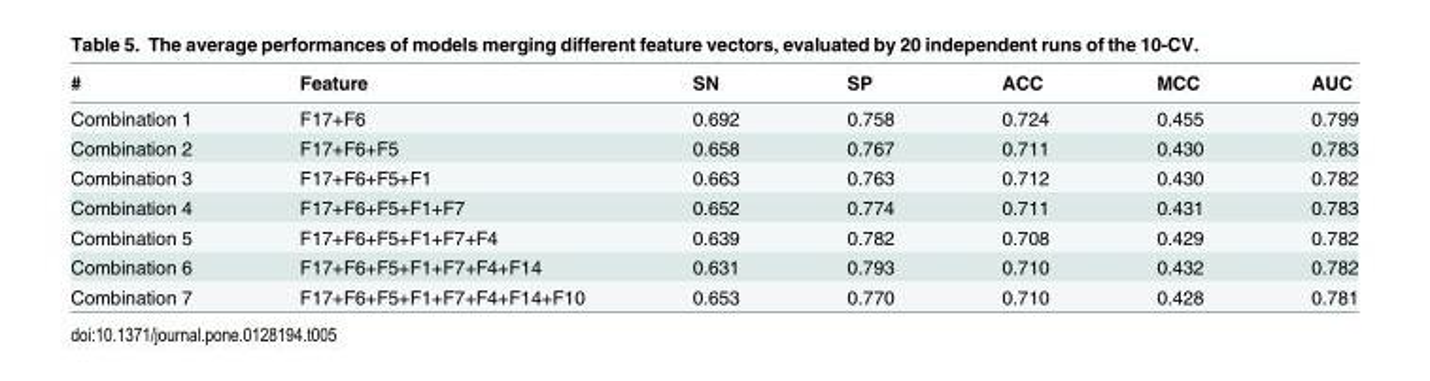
<table><thead><tr><td>#</td><td>Feature</td><td>SN</td><td>SP</td><td>ACC</td><td>MCC</td><td>AUC</td></tr></thead><tbody><tr><td>Combination 1</td><td>F17+F6</td><td>0.692</td><td>0.758</td><td>0.724</td><td>0.455</td><td>0.799</td></tr><tr><td>Combination 2</td><td>F17+F6+F5</td><td>0.658</td><td>0.767</td><td>0.711</td><td>0.430</td><td>0.783</td></tr><tr><td>Combination 3</td><td>F17+F6+F5+F1</td><td>0.663</td><td>0.763</td><td>0.712</td><td>0.430</td><td>0.782</td></tr><tr><td>Combination 4</td><td>F17+F6+F5+F1+F7</td><td>0.652</td><td>0.774</td><td>0.711</td><td>0.431</td><td>0.783</td></tr><tr><td>Combination 5</td><td>F17+F6+F5+F1+F7+F4</td><td>0.639</td><td>0.782</td><td>0.708</td><td>0.429</td><td>0.782</td></tr><tr><td>Combination 6</td><td>F17+F6+F5+F1+F7+F4+F14</td><td>0.631</td><td>0.793</td><td>0.710</td><td>0.432</td><td>0.782</td></tr><tr><td>Combination 7</td><td>F17+F6+F5+F1+F7+F4+F14+F10</td><td>0.653</td><td>0.770</td><td>0.710</td><td>0.428</td><td>0.781</td></tr></tbody></table>